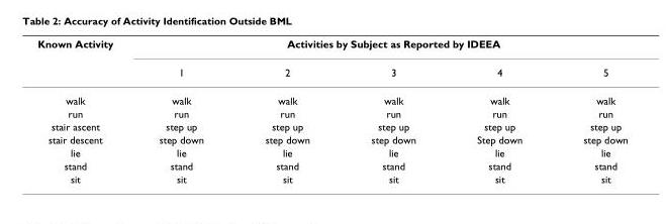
<table><thead><tr><td rowspan="2">Known Activity</td><td colspan="5">Activities by Subject as Reported by IDEEA</td></tr><tr><td>1</td><td>2</td><td>3</td><td>4</td><td>5</td></tr></thead><tbody><tr><td>walk</td><td>walk</td><td>walk</td><td>walk</td><td>walk</td><td>walk</td></tr><tr><td>run</td><td>run</td><td>run</td><td>run</td><td>run</td><td>run</td></tr><tr><td>stair ascent</td><td>step up</td><td>step up</td><td>step up</td><td>step up</td><td>step up</td></tr><tr><td>stair descent</td><td>step down</td><td>step down</td><td>step down</td><td>Step down</td><td>step down</td></tr><tr><td>lie</td><td>lie</td><td>lie</td><td>lie</td><td>lie</td><td>lie</td></tr><tr><td>stand</td><td>stand</td><td>stand</td><td>stand</td><td>stand</td><td>stand</td></tr><tr><td>sit</td><td>sit</td><td>sit</td><td>sit</td><td>sit</td><td>sit</td></tr></tbody></table>